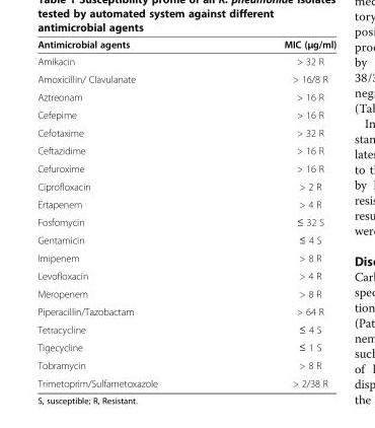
<table><thead><tr><td>Antimicrobial agents</td><td>MIC (μg/ml)</td></tr></thead><tbody><tr><td>Amikacin</td><td>&gt; 32 R</td></tr><tr><td>Amoxicillin/ Clavulanate</td><td>&gt; 16/8 R</td></tr><tr><td>Aztreonam</td><td>&gt; 16 R</td></tr><tr><td>Cefepime</td><td>&gt; 16 R</td></tr><tr><td>Cefotaxime</td><td>&gt; 32 R</td></tr><tr><td>Ceftazidime</td><td>&gt; 16 R</td></tr><tr><td>Cefuroxime</td><td>&gt; 16 R</td></tr><tr><td>Ciprofloxacin</td><td>&gt; 2 R</td></tr><tr><td>Ertapenem</td><td>&gt; 4 R</td></tr><tr><td>Fosfomycin</td><td>≤ 32 S</td></tr><tr><td>Gentamicin</td><td>≤ 4 S</td></tr><tr><td>Imipenem</td><td>&gt; 8 R</td></tr><tr><td>Levofloxacin</td><td>&gt; 4 R</td></tr><tr><td>Meropenem</td><td>&gt; 8 R</td></tr><tr><td>Piperacillin/Tazobactam</td><td>&gt; 64 R</td></tr><tr><td>Tetracycline</td><td>≤ 4 S</td></tr><tr><td>Tigecycline</td><td>≤ 1 S</td></tr><tr><td>Tobramycin</td><td>&gt; 8 R</td></tr><tr><td>Trimetoprim/Sulfametoxazole</td><td>&gt; 2/38 R</td></tr></tbody></table>